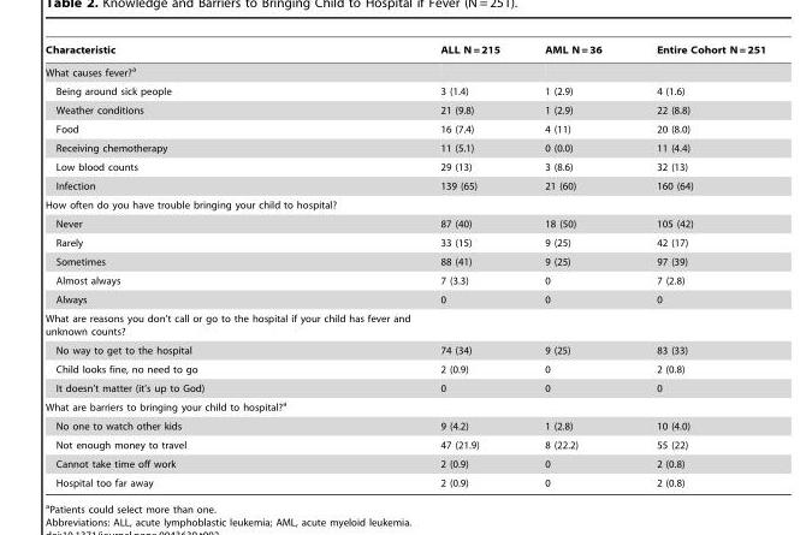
<table><thead><tr><td>Characteristic</td><td>ALL N = 215</td><td>AML N = 36</td><td>Entire Cohort N = 251</td></tr></thead><tbody><tr><td colspan="4">What causes fever?<sup>a</sup></td></tr><tr><td>Being around sick people</td><td>3 (1.4)</td><td>1 (2.9)</td><td>4 (1.6)</td></tr><tr><td>Weather conditions</td><td>21 (9.8)</td><td>1 (2.9)</td><td>22 (8.8)</td></tr><tr><td>Food</td><td>16 (7.4)</td><td>4 (11)</td><td>20 (8.0)</td></tr><tr><td>Receiving chemotherapy</td><td>11 (5.1)</td><td>0 (0.0)</td><td>11 (4.4)</td></tr><tr><td>Low blood counts</td><td>29 (13)</td><td>3 (8.6)</td><td>32 (13)</td></tr><tr><td>Infection</td><td>139 (65)</td><td>21 (60)</td><td>160 (64)</td></tr><tr><td colspan="4">How often do you have trouble bringing your child to hospital?</td></tr><tr><td>Never</td><td>87 (40)</td><td>18 (50)</td><td>105 (42)</td></tr><tr><td>Rarely</td><td>33 (15)</td><td>9 (25)</td><td>42 (17)</td></tr><tr><td>Sometimes</td><td>88 (41)</td><td>9 (25)</td><td>97 (39)</td></tr><tr><td>Almost always</td><td>7 (3.3)</td><td>0</td><td>7 (2.8)</td></tr><tr><td>Always</td><td>0</td><td>0</td><td>0</td></tr><tr><td colspan="4">What are reasons you don’t call or go to the hospital if your child has fever and unknown counts?</td></tr><tr><td>No way to get to the hospital</td><td>74 (34)</td><td>9 (25)</td><td>83 (33)</td></tr><tr><td>Child looks fine, no need to go</td><td>2 (0.9)</td><td>0</td><td>2 (0.8)</td></tr><tr><td>It doesn’t matter (it’s up to God)</td><td>0</td><td>0</td><td>0</td></tr><tr><td colspan="4">What are barriers to bringing your child to hospital?<sup>a</sup></td></tr><tr><td>No one to watch other kids</td><td>9 (4.2)</td><td>1 (2.8)</td><td>10 (4.0)</td></tr><tr><td>Not enough money to travel</td><td>47 (21.9)</td><td>8 (22.2)</td><td>55 (22)</td></tr><tr><td>Cannot take time off work</td><td>2 (0.9)</td><td>0</td><td>2 (0.8)</td></tr><tr><td>Hospital too far away</td><td>2 (0.9)</td><td>0</td><td>2 (0.8)</td></tr></tbody></table>